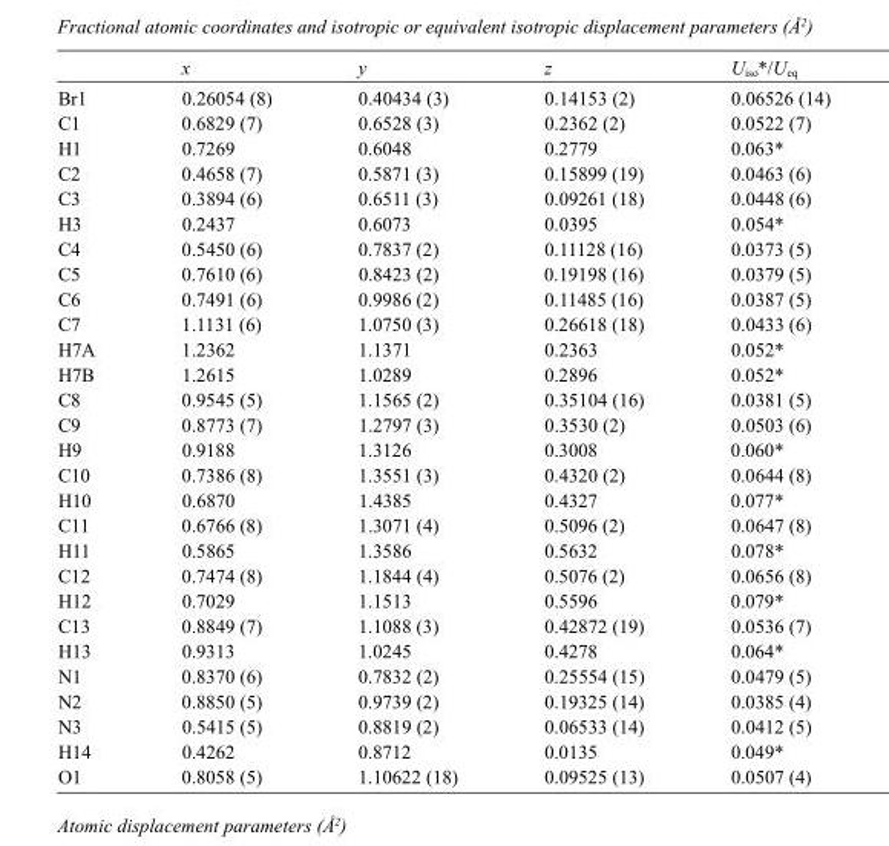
<table><thead><tr><td></td><td>x</td><td>y</td><td>z</td><td>U<sub>iso</sub>*/U<sub>eq</sub></td></tr></thead><tbody><tr><td>Br1</td><td>0.26054 (8)</td><td>0.40434 (3)</td><td>0.14153 (2)</td><td>0.06526 (14)</td></tr><tr><td>C1</td><td>0.6829 (7)</td><td>0.6528 (3)</td><td>0.2362 (2)</td><td>0.0522 (7)</td></tr><tr><td>H1</td><td>0.7269</td><td>0.6048</td><td>0.2779</td><td>0.063*</td></tr><tr><td>C2</td><td>0.4658 (7)</td><td>0.5871 (3)</td><td>0.15899 (19)</td><td>0.0463 (6)</td></tr><tr><td>C3</td><td>0.3894 (6)</td><td>0.6511 (3)</td><td>0.09261 (18)</td><td>0.0448 (6)</td></tr><tr><td>H3</td><td>0.2437</td><td>0.6073</td><td>0.0395</td><td>0.054*</td></tr><tr><td>C4</td><td>0.5450 (6)</td><td>0.7837 (2)</td><td>0.11128 (16)</td><td>0.0373 (5)</td></tr><tr><td>C5</td><td>0.7610 (6)</td><td>0.8423 (2)</td><td>0.19198 (16)</td><td>0.0379 (5)</td></tr><tr><td>C6</td><td>0.7491 (6)</td><td>0.9986 (2)</td><td>0.11485 (16)</td><td>0.0387 (5)</td></tr><tr><td>C7</td><td>1.1131 (6)</td><td>1.0750 (3)</td><td>0.26618 (18)</td><td>0.0433 (6)</td></tr><tr><td>H7A</td><td>1.2362</td><td>1.1371</td><td>0.2363</td><td>0.052*</td></tr><tr><td>H7B</td><td>1.2615</td><td>1.0289</td><td>0.2896</td><td>0.052*</td></tr><tr><td>C8</td><td>0.9545 (5)</td><td>1.1565 (2)</td><td>0.35104 (16)</td><td>0.0381 (5)</td></tr><tr><td>C9</td><td>0.8773 (7)</td><td>1.2797 (3)</td><td>0.3530 (2)</td><td>0.0503 (6)</td></tr><tr><td>H9</td><td>0.9188</td><td>1.3126</td><td>0.3008</td><td>0.060*</td></tr><tr><td>C10</td><td>0.7386 (8)</td><td>1.3551 (3)</td><td>0.4320 (2)</td><td>0.0644 (8)</td></tr><tr><td>H10</td><td>0.6870</td><td>1.4385</td><td>0.4327</td><td>0.077*</td></tr><tr><td>C11</td><td>0.6766 (8)</td><td>1.3071 (4)</td><td>0.5096 (2)</td><td>0.0647 (8)</td></tr><tr><td>H11</td><td>0.5865</td><td>1.3586</td><td>0.5632</td><td>0.078*</td></tr><tr><td>C12</td><td>0.7474 (8)</td><td>1.1844 (4)</td><td>0.5076 (2)</td><td>0.0656 (8)</td></tr><tr><td>H12</td><td>0.7029</td><td>1.1513</td><td>0.5596</td><td>0.079*</td></tr><tr><td>C13</td><td>0.8849 (7)</td><td>1.1088 (3)</td><td>0.42872 (19)</td><td>0.0536 (7)</td></tr><tr><td>H13</td><td>0.9313</td><td>1.0245</td><td>0.4278</td><td>0.064*</td></tr><tr><td>N1</td><td>0.8370 (6)</td><td>0.7832 (2)</td><td>0.25554 (15)</td><td>0.0479 (5)</td></tr><tr><td>N2</td><td>0.8850 (5)</td><td>0.9739 (2)</td><td>0.19325 (14)</td><td>0.0385 (4)</td></tr><tr><td>N3</td><td>0.5415 (5)</td><td>0.8819 (2)</td><td>0.06533 (14)</td><td>0.0412 (5)</td></tr><tr><td>H14</td><td>0.4262</td><td>0.8712</td><td>0.0135</td><td>0.049*</td></tr><tr><td>O1</td><td>0.8058 (5)</td><td>1.10622 (18)</td><td>0.09525 (13)</td><td>0.0507 (4)</td></tr></tbody></table>